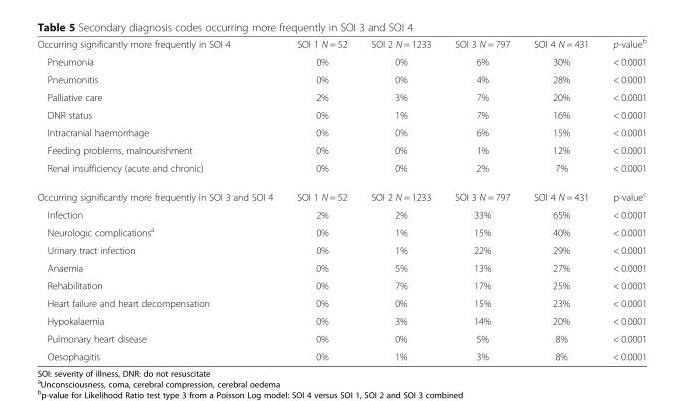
<table><tbody><tr><td>Occurring significantly more frequently in SOI 4</td><td>SOI 1 N = 52</td><td>SOI 2 N = 1233</td><td>SOI 3 N = 797</td><td>SOI 4 N = 431</td><td>p-value<sup>b</sup></td></tr><tr><td>Pneumonia</td><td>0%</td><td>0%</td><td>6%</td><td>30%</td><td>&lt; 0.0001</td></tr><tr><td>Pneumonitis</td><td>0%</td><td>0%</td><td>4%</td><td>28%</td><td>&lt; 0.0001</td></tr><tr><td>Palliative care</td><td>2%</td><td>3%</td><td>7%</td><td>20%</td><td>&lt; 0.0001</td></tr><tr><td>DNR status</td><td>0%</td><td>1%</td><td>7%</td><td>16%</td><td>&lt; 0.0001</td></tr><tr><td>Intracranial haemorrhage</td><td>0%</td><td>0%</td><td>6%</td><td>15%</td><td>&lt; 0.0001</td></tr><tr><td>Feeding problems, malnourishment</td><td>0%</td><td>0%</td><td>1%</td><td>12%</td><td>&lt; 0.0001</td></tr><tr><td>Renal insufficiency (acute and chronic)</td><td>0%</td><td>0%</td><td>2%</td><td>7%</td><td>&lt; 0.0001</td></tr><tr><td>Occurring significantly more frequently in SOI 3 and SOI 4</td><td>SOI 1 N = 52</td><td>SOI 2 N = 1233</td><td>SOI 3 N = 797</td><td>SOI 4 N = 431</td><td>p-value<sup>c</sup></td></tr><tr><td>Infection</td><td>2%</td><td>2%</td><td>33%</td><td>65%</td><td>&lt; 0.0001</td></tr><tr><td>Neurologic complications<sup>a</sup></td><td>0%</td><td>1%</td><td>15%</td><td>40%</td><td>&lt; 0.0001</td></tr><tr><td>Urinary tract infection</td><td>0%</td><td>1%</td><td>22%</td><td>29%</td><td>&lt; 0.0001</td></tr><tr><td>Anaemia</td><td>0%</td><td>5%</td><td>13%</td><td>27%</td><td>&lt; 0.0001</td></tr><tr><td>Rehabilitation</td><td>0%</td><td>7%</td><td>17%</td><td>25%</td><td>&lt; 0.0001</td></tr><tr><td>Heart failure and heart decompensation</td><td>0%</td><td>0%</td><td>15%</td><td>23%</td><td>&lt; 0.0001</td></tr><tr><td>Hypokalaemia</td><td>0%</td><td>3%</td><td>14%</td><td>20%</td><td>&lt; 0.0001</td></tr><tr><td>Pulmonary heart disease</td><td>0%</td><td>0%</td><td>5%</td><td>8%</td><td>&lt; 0.0001</td></tr><tr><td>Oesophagitis</td><td>0%</td><td>1%</td><td>3%</td><td>8%</td><td>&lt; 0.0001</td></tr></tbody></table>